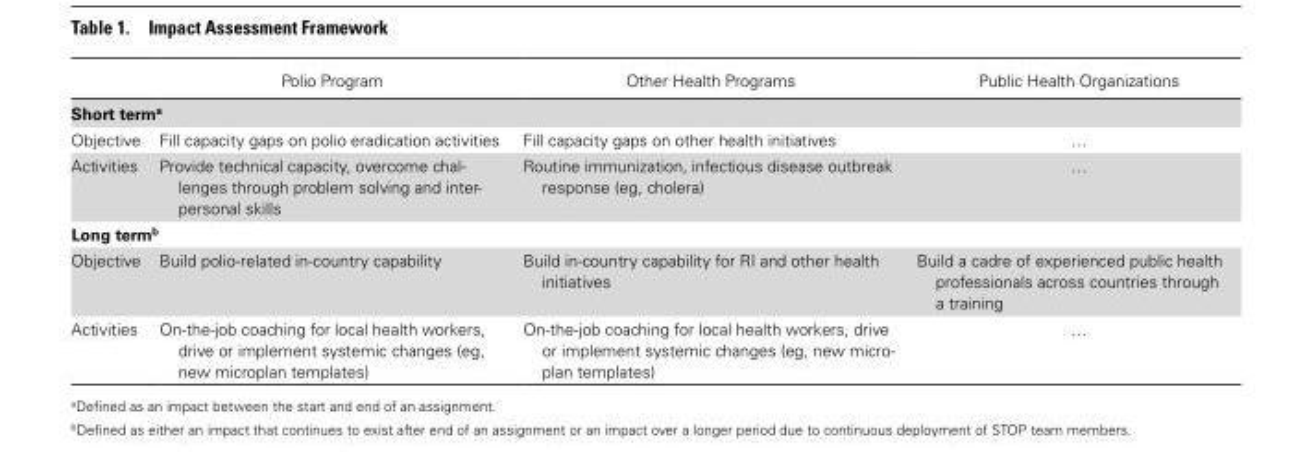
<table><thead><tr><td></td><td>Polio Program</td><td>Other Health Programs</td><td>Public Health Organizations</td></tr></thead><tbody><tr><td colspan="4">Short term<sup>a</sup></td></tr><tr><td>Objective</td><td>Fill capacity gaps on polio eradication activities</td><td>Fill capacity gaps on other health initiatives</td><td>…</td></tr><tr><td>Activities</td><td>Provide technical capacity, overcome chal- lenges through problem solving and inter- personal skills</td><td>Routine immunization, infectious disease outbreak response (eg, cholera)</td><td>…</td></tr><tr><td colspan="4">Long term<sup>b</sup></td></tr><tr><td>Objective</td><td>Build polio-related in-country capability</td><td>Build in-country capability for RI and other health initiatives</td><td>Build a cadre of experienced public health professionals across countries through a training</td></tr><tr><td>Activities</td><td>On-the-job coaching for local health workers, drive or implement systemic changes (eg, new microplan templates)</td><td>On-the-job coaching for local health workers, drive or implement systemic changes (eg, new micro- plan templates)</td><td>…</td></tr></tbody></table>